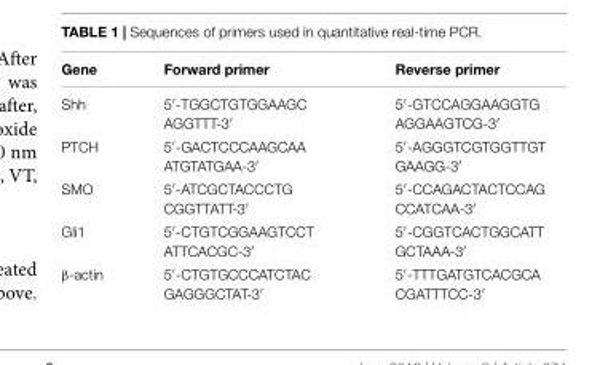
<table><thead><tr><td>Gene</td><td>Forward primer</td><td>Reverse primer</td></tr></thead><tbody><tr><td>Shh</td><td>5′-TGGCTGTGGAAGC AGGTTT-3′</td><td>5′-GTCCAGGAAGGTG AGGAAGTCG-3′</td></tr><tr><td>PTCH</td><td>5′-GACTCCCAAGCAA ATGTATGAA-3′</td><td>5′-AGGGTCGTGGTTGT GAAGG-3′</td></tr><tr><td>SMO</td><td>5′-ATCGCTACCCTG CGGTTATT-3′</td><td>5′-CCAGACTACTCCAG CCATCAA-3′</td></tr><tr><td>Gli1</td><td>5′-CTGTCGGAAGTCCT ATTCACGC-3′</td><td>5′-CGGTCACTGGCATT GCTAAA-3′</td></tr><tr><td>β-actin</td><td>5′-CTGTGCCCATCTAC GAGGGCTAT-3′</td><td>5′-TTTGATGTCACGCA CGATTTCC-3′</td></tr></tbody></table>